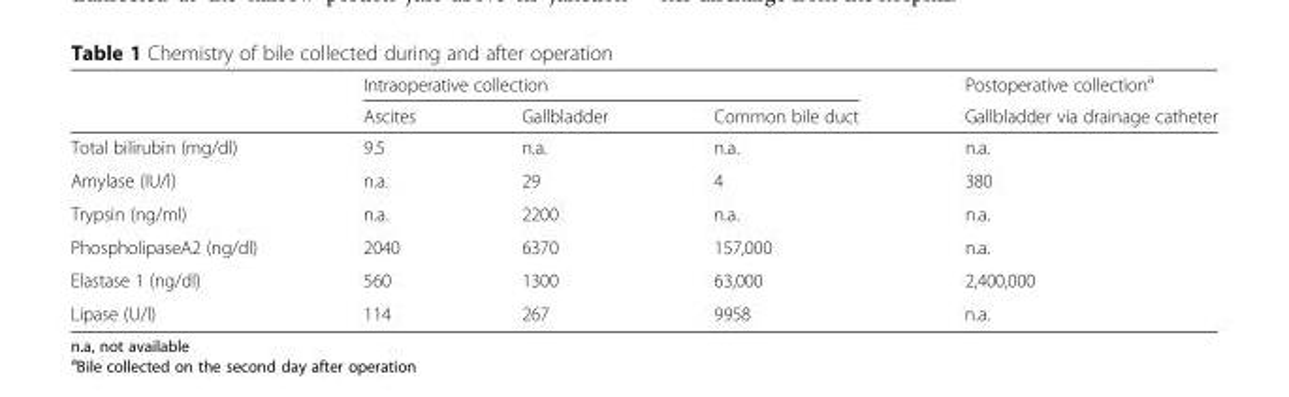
<table><thead><tr><td rowspan="2"></td><td colspan="3">Intraoperative collection</td><td rowspan="2">Postoperative collection<sup>a</sup> Gallbladder via drainage catheter</td></tr><tr><td>Ascites</td><td>Gallbladder</td><td>Common bile duct</td></tr></thead><tbody><tr><td>Total bilirubin (mg/dl)</td><td>9.5</td><td>n.a.</td><td>n.a.</td><td>n.a.</td></tr><tr><td>Amylase (IU/l)</td><td>n.a.</td><td>29</td><td>4</td><td>380</td></tr><tr><td>Trypsin (ng/ml)</td><td>n.a.</td><td>2200</td><td>n.a.</td><td>n.a.</td></tr><tr><td>PhospholipaseA2 (ng/dl)</td><td>2040</td><td>6370</td><td>157,000</td><td>n.a.</td></tr><tr><td>Elastase 1 (ng/dl)</td><td>560</td><td>1300</td><td>63,000</td><td>2,400,000</td></tr><tr><td>Lipase (U/l)</td><td>114</td><td>267</td><td>9958</td><td>n.a.</td></tr></tbody></table>